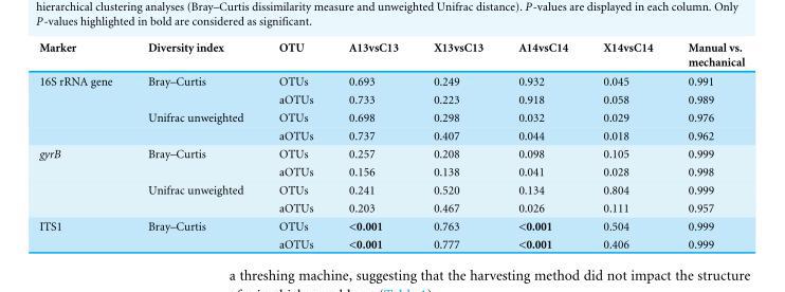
<table><thead><tr><td>Marker</td><td>Diversity index</td><td>OTU</td><td>A13vsC13</td><td>X13vsC13</td><td>A14vsC14</td><td>X14vsC14</td><td>Manual vs. mechanical</td></tr></thead><tbody><tr><td rowspan="4">16S rRNA gene</td><td>Bray–Curtis</td><td>OTUs</td><td>0.693</td><td>0.249</td><td>0.932</td><td>0.045</td><td>0.991</td></tr><tr><td></td><td>aOTUs</td><td>0.733</td><td>0.223</td><td>0.918</td><td>0.058</td><td>0.989</td></tr><tr><td>Unifrac unweighted</td><td>OTUs</td><td>0.698</td><td>0.298</td><td>0.032</td><td>0.029</td><td>0.976</td></tr><tr><td></td><td>aOTUs</td><td>0.737</td><td>0.407</td><td>0.044</td><td>0.018</td><td>0.962</td></tr><tr><td rowspan="4">gyrB</td><td>Bray–Curtis</td><td>OTUs</td><td>0.257</td><td>0.208</td><td>0.098</td><td>0.105</td><td>0.999</td></tr><tr><td></td><td>aOTUs</td><td>0.156</td><td>0.138</td><td>0.041</td><td>0.028</td><td>0.998</td></tr><tr><td>Unifrac unweighted</td><td>OTUs</td><td>0.241</td><td>0.520</td><td>0.134</td><td>0.804</td><td>0.999</td></tr><tr><td></td><td>aOTUs</td><td>0.203</td><td>0.467</td><td>0.026</td><td>0.111</td><td>0.957</td></tr><tr><td rowspan="2">ITS1</td><td>Bray–Curtis</td><td>OTUs</td><td>&lt;0.001</td><td>0.763</td><td>&lt;0.001</td><td>0.504</td><td>0.999</td></tr><tr><td></td><td>aOTUs</td><td>&lt;0.001</td><td>0.777</td><td>&lt;0.001</td><td>0.406</td><td>0.999</td></tr></tbody></table>